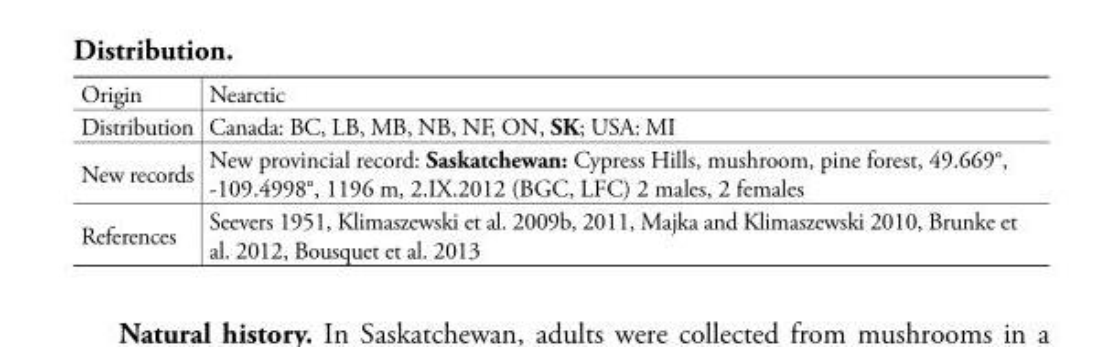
<table><tbody><tr><td>Origin</td><td>Nearctic</td></tr><tr><td>Distribution</td><td>Canada: BC, LB, MB, NB, NF, ON, SK; USA: MI</td></tr><tr><td>New records</td><td>New provincial record: Saskatchewan: Cypress Hills, mushroom, pine forest, 49.669°, -109.4998°, 1196 m, 2.IX.2012 (BGC, LFC) 2 males, 2 females</td></tr><tr><td>References</td><td>Seevers 1951, Klimaszewski et al. 2009b, 2011, Majka and Klimaszewski 2010, Brunke et al. 2012, Bousquet et al. 2013</td></tr></tbody></table>